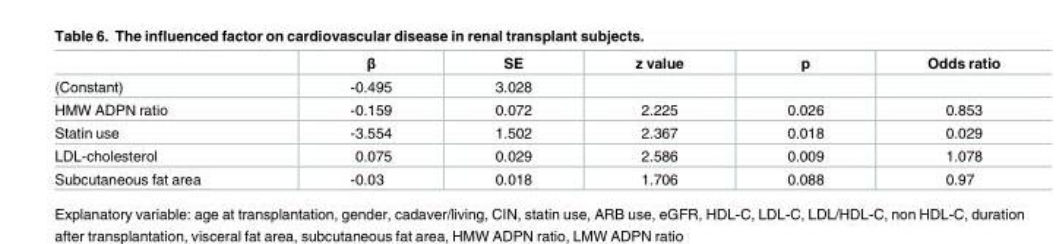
<table><thead><tr><td></td><td>β</td><td>SE</td><td>z value</td><td>p</td><td>Odds ratio</td></tr></thead><tbody><tr><td>(Constant)</td><td>-0.495</td><td>3.028</td><td></td><td></td><td></td></tr><tr><td>HMW ADPN ratio</td><td>-0.159</td><td>0.072</td><td>2.225</td><td>0.026</td><td>0.853</td></tr><tr><td>Statin use</td><td>-3.554</td><td>1.502</td><td>2.367</td><td>0.018</td><td>0.029</td></tr><tr><td>LDL-cholesterol</td><td>0.075</td><td>0.029</td><td>2.586</td><td>0.009</td><td>1.078</td></tr><tr><td>Subcutaneous fat area</td><td>-0.03</td><td>0.018</td><td>1.706</td><td>0.088</td><td>0.97</td></tr></tbody></table>